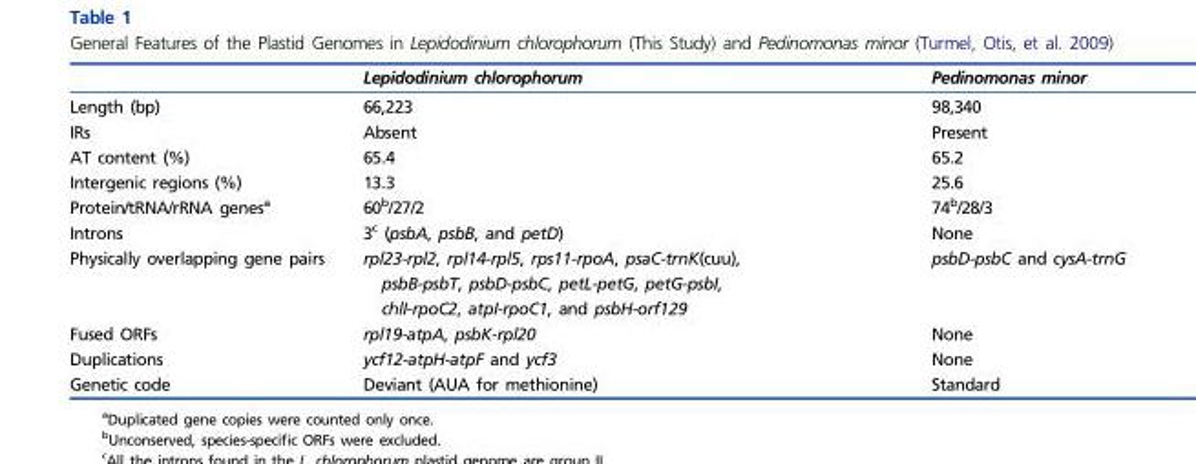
<table><thead><tr><td></td><td>Lepidodinium chlorophorum</td><td>Pedinomonas minor</td></tr></thead><tbody><tr><td>Length (bp)</td><td>66,223</td><td>98,340</td></tr><tr><td>IRs</td><td>Absent</td><td>Present</td></tr><tr><td>AT content (%)</td><td>65.4</td><td>65.2</td></tr><tr><td>Intergenic regions (%)</td><td>13.3</td><td>25.6</td></tr><tr><td>Protein/tRNA/rRNA genes<sup>a</sup></td><td>60<sup>b</sup>/27/2</td><td>74<sup>b</sup>/28/3</td></tr><tr><td>Introns</td><td>3<sup>c</sup> (psbA, psbB, and petD)</td><td>None</td></tr><tr><td>Physically overlapping gene pairs</td><td>rpl23-rpl2, rpl14-rpl5, rps11-rpoA, psaC-trnK(cuu), psbB-psbT, psbD-psbC, petL-petG, petG-psbI, chlI-rpoC2, atpI-rpoC1, and psbH-orf129</td><td>psbD-psbC and cysA-trnG</td></tr><tr><td>Fused ORFs</td><td>rpl19-atpA, psbK-rpl20</td><td>None</td></tr><tr><td>Duplications</td><td>ycf12-atpH-atpF and ycf3</td><td>None</td></tr><tr><td>Genetic code</td><td>Deviant (AUA for methionine)</td><td>Standard</td></tr></tbody></table>